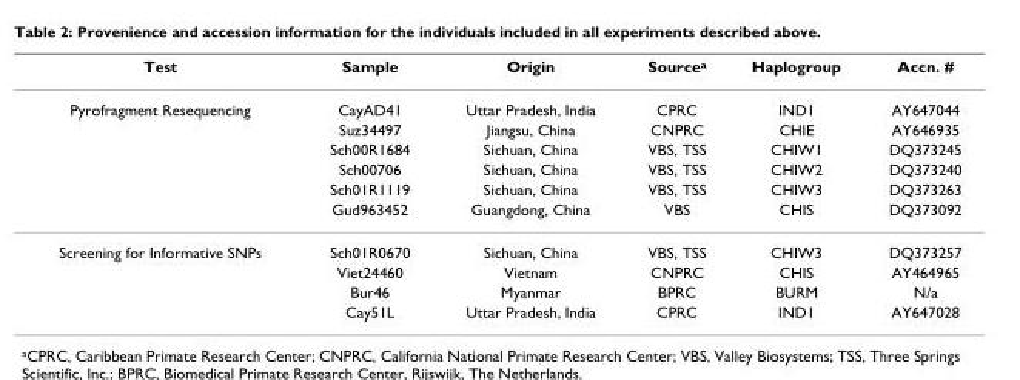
<table><thead><tr><td>Test</td><td>Sample</td><td>Origin</td><td>Source<sup>a</sup></td><td>Haplogroup</td><td>Accn. #</td></tr></thead><tbody><tr><td rowspan="6">Pyrofragment Resequencing</td><td>CayAD41</td><td>Uttar Pradesh, India</td><td>CPRC</td><td>IND1</td><td>AY647044</td></tr><tr><td>Suz34497</td><td>Jiangsu, China</td><td>CNPRC</td><td>CHIE</td><td>AY646935</td></tr><tr><td>Sch00R1684</td><td>Sichuan, China</td><td>VBS, TSS</td><td>CHIW1</td><td>DQ373245</td></tr><tr><td>Sch00706</td><td>Sichuan, China</td><td>VBS, TSS</td><td>CHIW2</td><td>DQ373240</td></tr><tr><td>Sch01R1119</td><td>Sichuan, China</td><td>VBS, TSS</td><td>CHIW3</td><td>DQ373263</td></tr><tr><td>Gud963452</td><td>Guangdong, China</td><td>VBS</td><td>CHIS</td><td>DQ373092</td></tr><tr><td rowspan="4">Screening for Informative SNPs</td><td>Sch01R0670</td><td>Sichuan, China</td><td>VBS, TSS</td><td>CHIW3</td><td>DQ373257</td></tr><tr><td>Viet24460</td><td>Vietnam</td><td>CNPRC</td><td>CHIS</td><td>AY464965</td></tr><tr><td>Bur46</td><td>Myanmar</td><td>BPRC</td><td>BURM</td><td>N/a</td></tr><tr><td>Cay51L</td><td>Uttar Pradesh, India</td><td>CPRC</td><td>IND1</td><td>AY647028</td></tr></tbody></table>